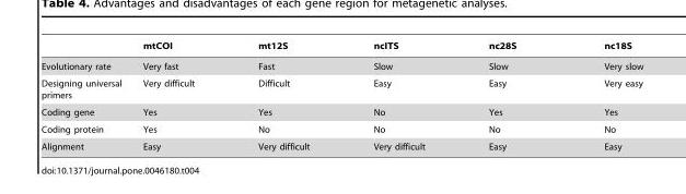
<table><thead><tr><td></td><td>mtCOI</td><td>mt12S</td><td>ncITS</td><td>nc28S</td><td>nc18S</td></tr></thead><tbody><tr><td>Evolutionary rate</td><td>Very fast</td><td>Fast</td><td>Slow</td><td>Slow</td><td>Very slow</td></tr><tr><td>Designing universal primers</td><td>Very difficult</td><td>Difficult</td><td>Easy</td><td>Easy</td><td>Very easy</td></tr><tr><td>Coding gene</td><td>Yes</td><td>Yes</td><td>No</td><td>Yes</td><td>Yes</td></tr><tr><td>Coding protein</td><td>Yes</td><td>No</td><td>No</td><td>No</td><td>No</td></tr><tr><td>Alignment</td><td>Easy</td><td>Very difficult</td><td>Very difficult</td><td>Easy</td><td>Easy</td></tr></tbody></table>